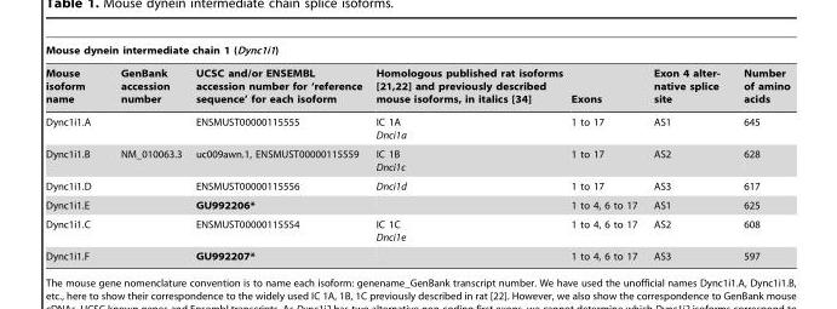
<table><thead><tr><td colspan="7">Mouse dynein intermediate chain 1 (Dync1i1)</td></tr><tr><td>Mouse isoform name</td><td>GenBank accession number</td><td>UCSC and/or ENSEMBL accession number for ‘reference sequence’ for each isoform</td><td>Homologous published rat isoforms [21,22] and previously described mouse isoforms, in italics [34]</td><td>Exons</td><td>Exon 4 alter- native splice site</td><td>Number of amino acids</td></tr></thead><tbody><tr><td>Dync1i1.A</td><td></td><td>ENSMUST00000115555</td><td>IC 1A Dnci1a</td><td>1 to 17</td><td>AS1</td><td>645</td></tr><tr><td>Dync1i1.B</td><td>NM_010063.3</td><td>uc009awn.1, ENSMUST00000115559</td><td>IC 1B Dnci1c</td><td>1 to 17</td><td>AS2</td><td>628</td></tr><tr><td>Dync1i1.D</td><td></td><td>ENSMUST00000115556</td><td>Dnci1d</td><td>1 to 17</td><td>AS3</td><td>617</td></tr><tr><td>Dync1i1.E</td><td></td><td>GU992206*</td><td></td><td>1 to 4, 6 to 17</td><td>AS1</td><td>625</td></tr><tr><td>Dync1i1.C</td><td></td><td>ENSMUST00000115554</td><td>IC 1C Dnci1e</td><td>1 to 4, 6 to 17</td><td>AS2</td><td>608</td></tr><tr><td>Dync1i1.F</td><td></td><td>GU992207*</td><td></td><td>1 to 4, 6 to 17</td><td>AS3</td><td>597</td></tr></tbody></table>